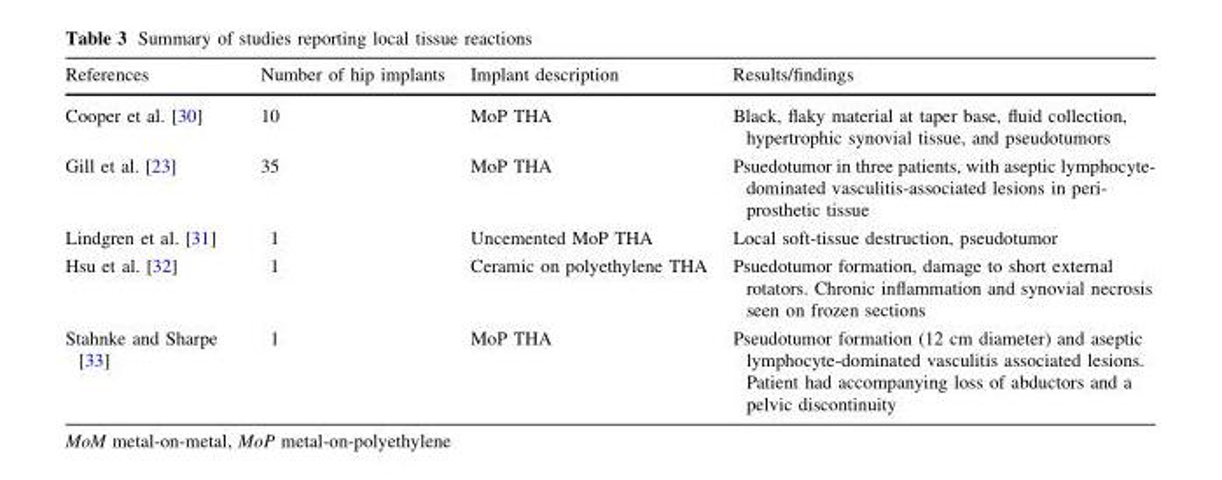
<table><thead><tr><td>References</td><td>Number of hip implants</td><td>Implant description</td><td>Results/findings</td></tr></thead><tbody><tr><td>Cooper et al. [30]</td><td>10</td><td>MoP THA</td><td>Black, flaky material at taper base, fluid collection, hypertrophic synovial tissue, and pseudotumors</td></tr><tr><td>Gill et al. [23]</td><td>35</td><td>MoP THA</td><td>Psuedotumor in three patients, with aseptic lymphocyte- dominated vasculitis-associated lesions in peri- prosthetic tissue</td></tr><tr><td>Lindgren et al. [31]</td><td>1</td><td>Uncemented MoP THA</td><td>Local soft-tissue destruction, pseudotumor</td></tr><tr><td>Hsu et al. [32]</td><td>1</td><td>Ceramic on polyethylene THA</td><td>Psuedotumor formation, damage to short external rotators. Chronic inflammation and synovial necrosis seen on frozen sections</td></tr><tr><td>Stahnke and Sharpe [33]</td><td>1</td><td>MoP THA</td><td>Pseudotumor formation (12 cm diameter) and aseptic lymphocyte-dominated vasculitis associated lesions. Patient had accompanying loss of abductors and a pelvic discontinuity</td></tr></tbody></table>